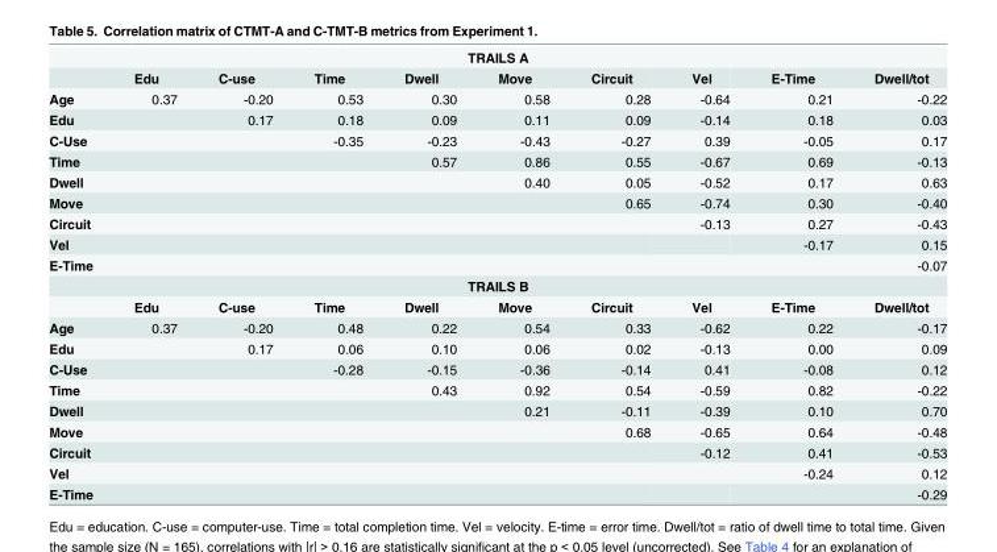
<table><tbody><tr><td colspan="10">TRAILS A</td></tr><tr><td></td><td>Edu</td><td>C-use</td><td>Time</td><td>Dwell</td><td>Move</td><td>Circuit</td><td>Vel</td><td>E-Time</td><td>Dwell/tot</td></tr><tr><td>Age</td><td>0.37</td><td>-0.20</td><td>0.53</td><td>0.30</td><td>0.58</td><td>0.28</td><td>-0.64</td><td>0.21</td><td>-0.22</td></tr><tr><td>Edu</td><td></td><td>0.17</td><td>0.18</td><td>0.09</td><td>0.11</td><td>0.09</td><td>-0.14</td><td>0.18</td><td>0.03</td></tr><tr><td>C-Use</td><td></td><td></td><td>-0.35</td><td>-0.23</td><td>-0.43</td><td>-0.27</td><td>0.39</td><td>-0.05</td><td>0.17</td></tr><tr><td>Time</td><td></td><td></td><td></td><td>0.57</td><td>0.86</td><td>0.55</td><td>-0.67</td><td>0.69</td><td>-0.13</td></tr><tr><td>Dwell</td><td></td><td></td><td></td><td></td><td>0.40</td><td>0.05</td><td>-0.52</td><td>0.17</td><td>0.63</td></tr><tr><td>Move</td><td></td><td></td><td></td><td></td><td></td><td>0.65</td><td>-0.74</td><td>0.30</td><td>-0.40</td></tr><tr><td>Circuit</td><td></td><td></td><td></td><td></td><td></td><td></td><td>-0.13</td><td>0.27</td><td>-0.43</td></tr><tr><td>Vel</td><td></td><td></td><td></td><td></td><td></td><td></td><td></td><td>-0.17</td><td>0.15</td></tr><tr><td>E-Time</td><td></td><td></td><td></td><td></td><td></td><td></td><td></td><td></td><td>-0.07</td></tr><tr><td colspan="10">TRAILS B</td></tr><tr><td></td><td>Edu</td><td>C-use</td><td>Time</td><td>Dwell</td><td>Move</td><td>Circuit</td><td>Vel</td><td>E-Time</td><td>Dwell/tot</td></tr><tr><td>Age</td><td>0.37</td><td>-0.20</td><td>0.48</td><td>0.22</td><td>0.54</td><td>0.33</td><td>-0.62</td><td>0.22</td><td>-0.17</td></tr><tr><td>Edu</td><td></td><td>0.17</td><td>0.06</td><td>0.10</td><td>0.06</td><td>0.02</td><td>-0.13</td><td>0.00</td><td>0.09</td></tr><tr><td>C-Use</td><td></td><td></td><td>-0.28</td><td>-0.15</td><td>-0.36</td><td>-0.14</td><td>0.41</td><td>-0.08</td><td>0.12</td></tr><tr><td>Time</td><td></td><td></td><td></td><td>0.43</td><td>0.92</td><td>0.54</td><td>-0.59</td><td>0.82</td><td>-0.22</td></tr><tr><td>Dwell</td><td></td><td></td><td></td><td></td><td>0.21</td><td>-0.11</td><td>-0.39</td><td>0.10</td><td>0.70</td></tr><tr><td>Move</td><td></td><td></td><td></td><td></td><td></td><td>0.68</td><td>-0.65</td><td>0.64</td><td>-0.48</td></tr><tr><td>Circuit</td><td></td><td></td><td></td><td></td><td></td><td></td><td>-0.12</td><td>0.41</td><td>-0.53</td></tr><tr><td>Vel</td><td></td><td></td><td></td><td></td><td></td><td></td><td></td><td>-0.24</td><td>0.12</td></tr><tr><td>E-Time</td><td></td><td></td><td></td><td></td><td></td><td></td><td></td><td></td><td>-0.29</td></tr></tbody></table>